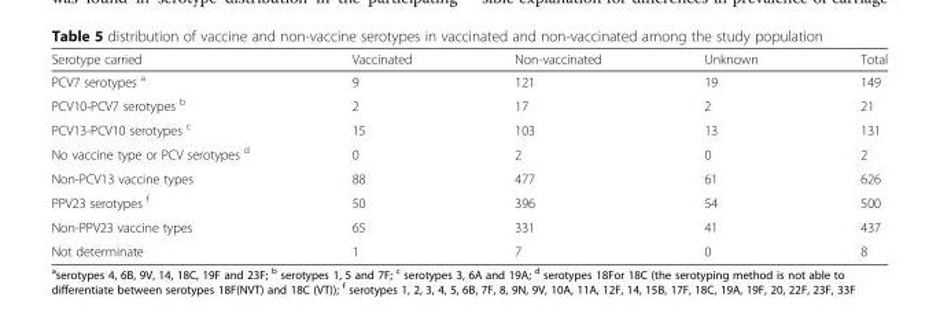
<table><thead><tr><td>Serotype carried</td><td>Vaccinated</td><td>Non-vaccinated</td><td>Unknown</td><td>Total</td></tr></thead><tbody><tr><td>PCV7 serotypes <sup>a</sup></td><td>9</td><td>121</td><td>19</td><td>149</td></tr><tr><td>PCV10-PCV7 serotypes <sup>b</sup></td><td>2</td><td>17</td><td>2</td><td>21</td></tr><tr><td>PCV13-PCV10 serotypes <sup>c</sup></td><td>15</td><td>103</td><td>13</td><td>131</td></tr><tr><td>No vaccine type or PCV serotypes <sup>d</sup></td><td>0</td><td>2</td><td>0</td><td>2</td></tr><tr><td>Non-PCV13 vaccine types</td><td>88</td><td>477</td><td>61</td><td>626</td></tr><tr><td>PPV23 serotypes <sup>f</sup></td><td>50</td><td>396</td><td>54</td><td>500</td></tr><tr><td>Non-PPV23 vaccine types</td><td>65</td><td>331</td><td>41</td><td>437</td></tr><tr><td>Not determinate</td><td>1</td><td>7</td><td>0</td><td>8</td></tr></tbody></table>